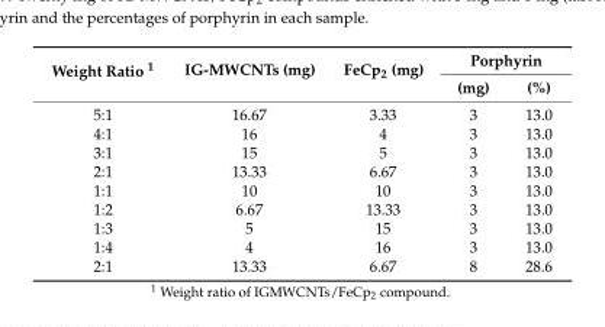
<table><thead><tr><td rowspan="2">Weight Ratio <sup>1</sup></td><td rowspan="2">IG-MWCNTs (mg)</td><td rowspan="2">FeCp<sub>2</sub> (mg)</td><td colspan="2">Porphyrin</td></tr><tr><td>(mg)</td><td>(%)</td></tr></thead><tbody><tr><td>5:1</td><td>16.67</td><td>3.33</td><td>3</td><td>13.0</td></tr><tr><td>4:1</td><td>16</td><td>4</td><td>3</td><td>13.0</td></tr><tr><td>3:1</td><td>15</td><td>5</td><td>3</td><td>13.0</td></tr><tr><td>2:1</td><td>13.33</td><td>6.67</td><td>3</td><td>13.0</td></tr><tr><td>1:1</td><td>10</td><td>10</td><td>3</td><td>13.0</td></tr><tr><td>1:2</td><td>6.67</td><td>13.33</td><td>3</td><td>13.0</td></tr><tr><td>1:3</td><td>5</td><td>15</td><td>3</td><td>13.0</td></tr><tr><td>1:4</td><td>4</td><td>16</td><td>3</td><td>13.0</td></tr><tr><td>2:1</td><td>13.33</td><td>6.67</td><td>8</td><td>28.6</td></tr></tbody></table>